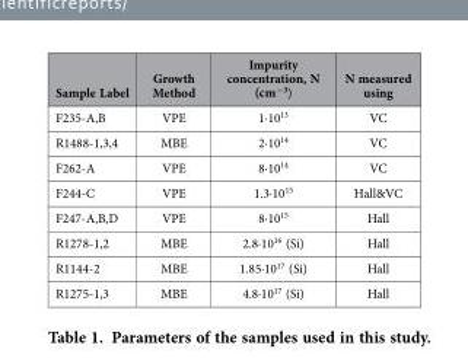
<table><thead><tr><td>Sample Label</td><td>Growth Method</td><td>Impurity concentration, N (cm<sup>−3</sup>)</td><td>N measured using</td></tr></thead><tbody><tr><td>F235-A,B</td><td>VPE</td><td>1·10<sup>13</sup></td><td>VC</td></tr><tr><td>R1488-1,3,4</td><td>MBE</td><td>2·10<sup>14</sup></td><td>VC</td></tr><tr><td>F262-A</td><td>VPE</td><td>8·10<sup>14</sup></td><td>VC</td></tr><tr><td>F244-C</td><td>VPE</td><td>1.3·10<sup>15</sup></td><td>Hall&amp;VC</td></tr><tr><td>F247-A,B,D</td><td>VPE</td><td>8·10<sup>15</sup></td><td>Hall</td></tr><tr><td>R1278-1,2</td><td>MBE</td><td>2.8·10<sup>16</sup> (Si)</td><td>Hall</td></tr><tr><td>R1144-2</td><td>MBE</td><td>1.85·10<sup>17</sup> (Si)</td><td>Hall</td></tr><tr><td>R1275-1,3</td><td>MBE</td><td>4.8·10<sup>17</sup> (Si)</td><td>Hall</td></tr></tbody></table>